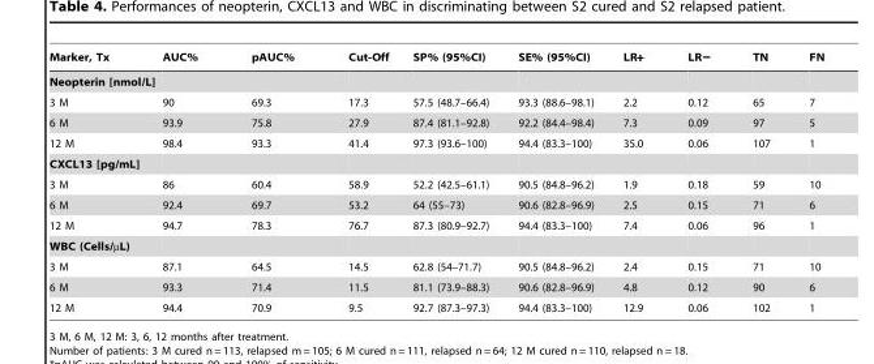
<table><thead><tr><td>Marker, Tx</td><td>AUC%</td><td>pAUC%</td><td>Cut-Off</td><td>SP% (95%CI)</td><td>SE% (95%CI)</td><td>LR+</td><td>LR−</td><td>TN</td><td>FN</td></tr></thead><tbody><tr><td colspan="10">Neopterin [nmol/L]</td></tr><tr><td>3 M</td><td>90</td><td>69.3</td><td>17.3</td><td>57.5 (48.7–66.4)</td><td>93.3 (88.6–98.1)</td><td>2.2</td><td>0.12</td><td>65</td><td>7</td></tr><tr><td>6 M</td><td>93.9</td><td>75.8</td><td>27.9</td><td>87.4 (81.1–92.8)</td><td>92.2 (84.4–98.4)</td><td>7.3</td><td>0.09</td><td>97</td><td>5</td></tr><tr><td>12 M</td><td>98.4</td><td>93.3</td><td>41.4</td><td>97.3 (93.6–100)</td><td>94.4 (83.3–100)</td><td>35.0</td><td>0.06</td><td>107</td><td>1</td></tr><tr><td colspan="10">CXCL13 [pg/mL]</td></tr><tr><td>3 M</td><td>86</td><td>60.4</td><td>58.9</td><td>52.2 (42.5–61.1)</td><td>90.5 (84.8–96.2)</td><td>1.9</td><td>0.18</td><td>59</td><td>10</td></tr><tr><td>6 M</td><td>92.4</td><td>69.7</td><td>53.2</td><td>64 (55–73)</td><td>90.6 (82.8–96.9)</td><td>2.5</td><td>0.15</td><td>71</td><td>6</td></tr><tr><td>12 M</td><td>94.7</td><td>78.3</td><td>76.7</td><td>87.3 (80.9–92.7)</td><td>94.4 (83.3–100)</td><td>7.4</td><td>0.06</td><td>96</td><td>1</td></tr><tr><td colspan="10">WBC (Cells/µL)</td></tr><tr><td>3 M</td><td>87.1</td><td>64.5</td><td>14.5</td><td>62.8 (54–71.7)</td><td>90.5 (84.8–96.2)</td><td>2.4</td><td>0.15</td><td>71</td><td>10</td></tr><tr><td>6 M</td><td>93.3</td><td>71.4</td><td>11.5</td><td>81.1 (73.9–88.3)</td><td>90.6 (82.8–96.9)</td><td>4.8</td><td>0.12</td><td>90</td><td>6</td></tr><tr><td>12 M</td><td>94.4</td><td>70.9</td><td>9.5</td><td>92.7 (87.3–97.3)</td><td>94.4 (83.3–100)</td><td>12.9</td><td>0.06</td><td>102</td><td>1</td></tr></tbody></table>